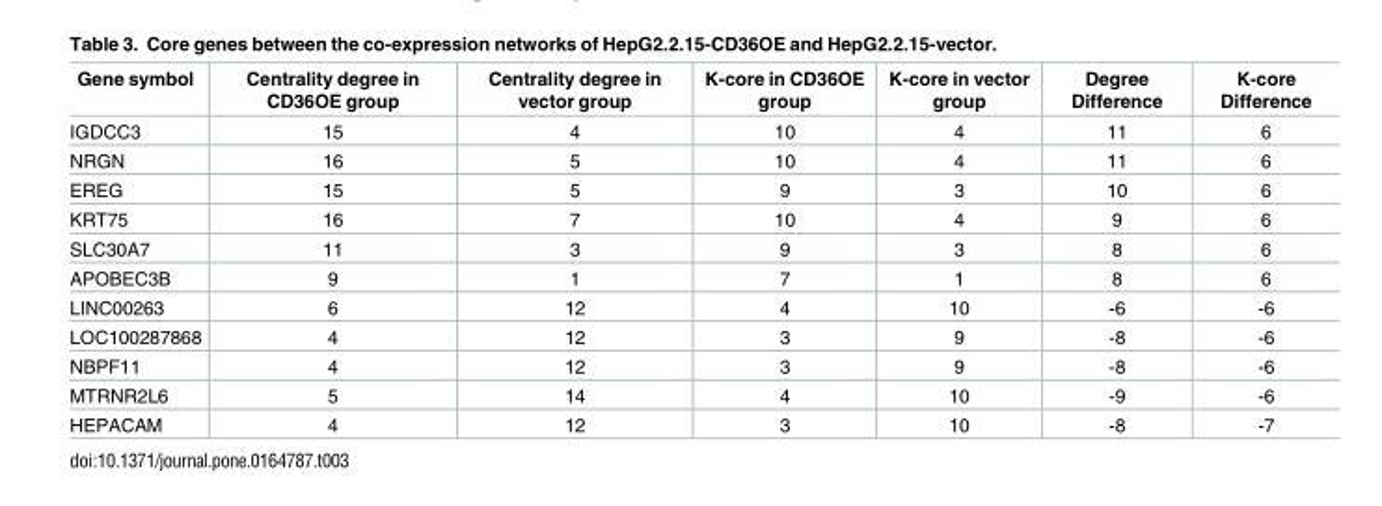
<table><thead><tr><td>Gene symbol</td><td>Centrality degree in CD36OE group</td><td>Centrality degree in vector group</td><td>K-core in CD36OE group</td><td>K-core in vector group</td><td>Degree Difference</td><td>K-core Difference</td></tr></thead><tbody><tr><td>IGDCC3</td><td>15</td><td>4</td><td>10</td><td>4</td><td>11</td><td>6</td></tr><tr><td>NRGN</td><td>16</td><td>5</td><td>10</td><td>4</td><td>11</td><td>6</td></tr><tr><td>EREG</td><td>15</td><td>5</td><td>9</td><td>3</td><td>10</td><td>6</td></tr><tr><td>KRT75</td><td>16</td><td>7</td><td>10</td><td>4</td><td>9</td><td>6</td></tr><tr><td>SLC30A7</td><td>11</td><td>3</td><td>9</td><td>3</td><td>8</td><td>6</td></tr><tr><td>APOBEC3B</td><td>9</td><td>1</td><td>7</td><td>1</td><td>8</td><td>6</td></tr><tr><td>LINC00263</td><td>6</td><td>12</td><td>4</td><td>10</td><td>-6</td><td>-6</td></tr><tr><td>LOC100287868</td><td>4</td><td>12</td><td>3</td><td>9</td><td>-8</td><td>-6</td></tr><tr><td>NBPF11</td><td>4</td><td>12</td><td>3</td><td>9</td><td>-8</td><td>-6</td></tr><tr><td>MTRNR2L6</td><td>5</td><td>14</td><td>4</td><td>10</td><td>-9</td><td>-6</td></tr><tr><td>HEPACAM</td><td>4</td><td>12</td><td>3</td><td>10</td><td>-8</td><td>-7</td></tr></tbody></table>